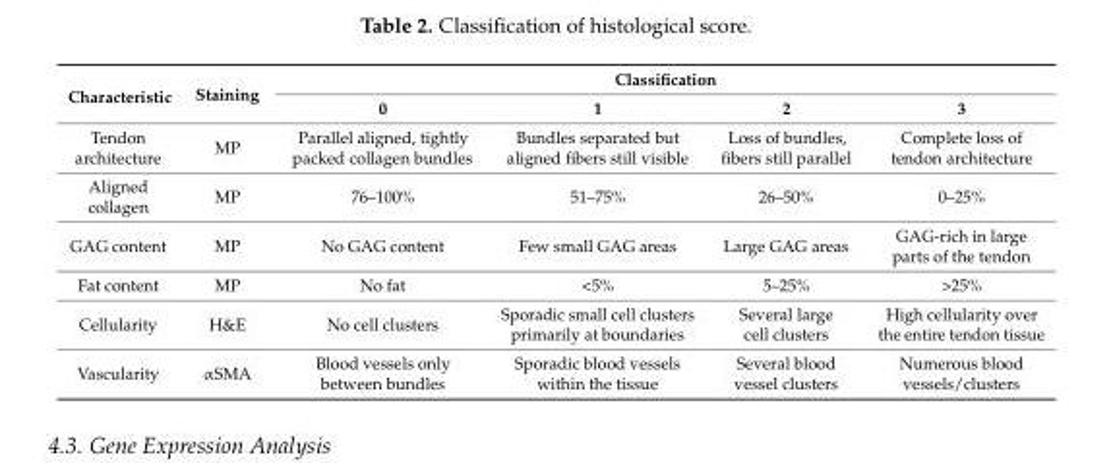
<table><thead><tr><td rowspan="2">Characteristic</td><td rowspan="2">Staining</td><td colspan="4">Classification</td></tr><tr><td>0</td><td>1</td><td>2</td><td>3</td></tr></thead><tbody><tr><td>Tendon architecture</td><td>MP</td><td>Parallel aligned, tightly packed collagen bundles</td><td>Bundles separated but aligned fibers still visible</td><td>Loss of bundles, fibers still parallel</td><td>Complete loss of tendon architecture</td></tr><tr><td>Aligned collagen</td><td>MP</td><td>76–100%</td><td>51–75%</td><td>26–50%</td><td>0–25%</td></tr><tr><td>GAG content</td><td>MP</td><td>No GAG content</td><td>Few small GAG areas</td><td>Large GAG areas</td><td>GAG-rich in large parts of the tendon</td></tr><tr><td>Fat content</td><td>MP</td><td>No fat</td><td>&lt;5%</td><td>5–25%</td><td>&gt;25%</td></tr><tr><td>Cellularity</td><td>H&amp;E</td><td>No cell clusters</td><td>Sporadic small cell clusters primarily at boundaries</td><td>Several large cell clusters</td><td>High cellularity over the entire tendon tissue</td></tr><tr><td>Vascularity</td><td>αSMA</td><td>Blood vessels only between bundles</td><td>Sporadic blood vessels within the tissue</td><td>Several blood vessel clusters</td><td>Numerous blood vessels/clusters</td></tr></tbody></table>